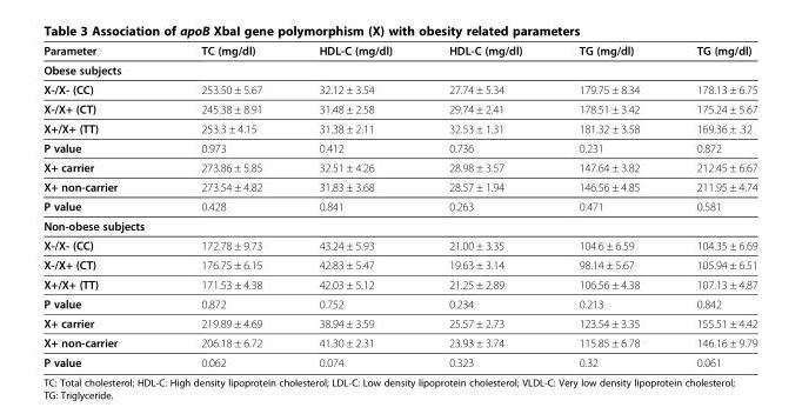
<table><thead><tr><td>Parameter</td><td>TC (mg/dl)</td><td>HDL-C (mg/dl)</td><td>HDL-C (mg/dl)</td><td>TG (mg/dl)</td><td>TG (mg/dl)</td></tr></thead><tbody><tr><td colspan="6">Obese subjects</td></tr><tr><td>X-/X- (CC)</td><td>253.50 ± 5.67</td><td>32.12 ± 3.54</td><td>27.74 ± 5.34</td><td>179.75 ± 8.34</td><td>178.13 ± 6.75</td></tr><tr><td>X-/X+ (CT)</td><td>245.38 ± 8.91</td><td>31.48 ± 2.58</td><td>29.74 ± 2.41</td><td>178.51 ± 3.42</td><td>175.24 ± 5.67</td></tr><tr><td>X+/X+ (TT)</td><td>253.3 ± 4.15</td><td>31.38 ± 2.11</td><td>32.53 ± 1.31</td><td>181.32 ± 3.58</td><td>169.36 ± .32</td></tr><tr><td>P value</td><td>0.973</td><td>0.412</td><td>0.736</td><td>0.231</td><td>0.872</td></tr><tr><td>X+ carrier</td><td>273.86 ± 5.85</td><td>32.51 ± 4.26</td><td>28.98 ± 3.57</td><td>147.64 ± 3.82</td><td>212.45 ± 6.67</td></tr><tr><td>X+ non-carrier</td><td>273.54 ± 4.82</td><td>31.83 ± 3.68</td><td>28.57 ± 1.94</td><td>146.56 ± 4.85</td><td>211.95 ± 4.74</td></tr><tr><td>P value</td><td>0.428</td><td>0.841</td><td>0.263</td><td>0.471</td><td>0.581</td></tr><tr><td colspan="6">Non-obese subjects</td></tr><tr><td>X-/X- (CC)</td><td>172.78 ± 9.73</td><td>43.24 ± 5.93</td><td>21.00 ± 3.35</td><td>104.6 ± 6.59</td><td>104.35 ± 6.69</td></tr><tr><td>X-/X+ (CT)</td><td>176.75 ± 6.15</td><td>42.83 ± 5.47</td><td>19.63 ± 3.14</td><td>98.14 ± 5.67</td><td>105.94 ± 6.51</td></tr><tr><td>X+/X+ (TT)</td><td>171.53 ± 4.38</td><td>42.03 ± 5.12</td><td>21.25 ± 2.89</td><td>106.56 ± 4.38</td><td>107.13 ± 4.87</td></tr><tr><td>P value</td><td>0.872</td><td>0.752</td><td>0.234</td><td>0.213</td><td>0.842</td></tr><tr><td>X+ carrier</td><td>219.89 ± 4.69</td><td>38.94 ± 3.59</td><td>25.57 ± 2.73</td><td>123.54 ± 3.35</td><td>155.51 ± 4.42</td></tr><tr><td>X+ non-carrier</td><td>206.18 ± 6.72</td><td>41.30 ± 2.31</td><td>23.93 ± 3.74</td><td>115.85 ± 6.78</td><td>146.16 ± 9.79</td></tr><tr><td>P value</td><td>0.062</td><td>0.074</td><td>0.323</td><td>0.32</td><td>0.061</td></tr></tbody></table>